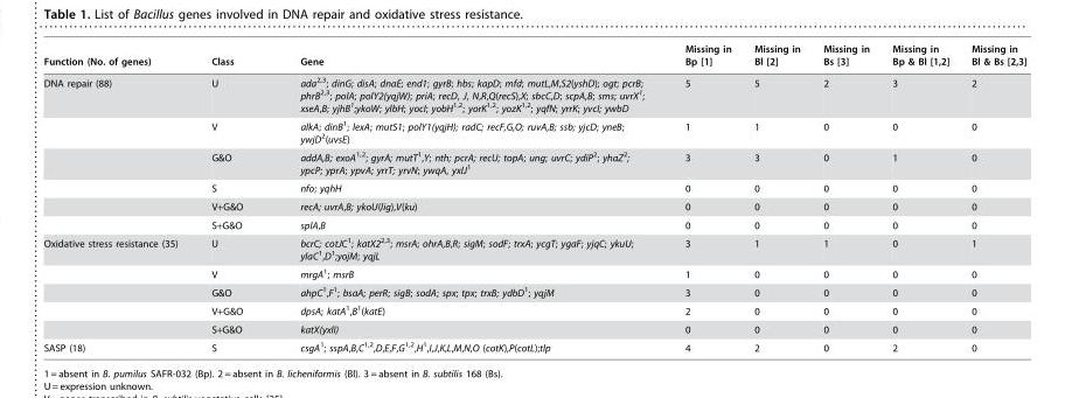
<table><thead><tr><td>Function (No. of genes)</td><td>Class</td><td>Gene</td><td>Missing in Bp [1]</td><td>Missing in Bl [2]</td><td>Missing in Bs [3]</td><td>Missing in Bp &amp; Bl [1,2]</td><td>Missing in Bl &amp; Bs [2,3]</td></tr></thead><tbody><tr><td rowspan="6">DNA repair (88)</td><td>U</td><td>ada2,3; dinG; disA; dnaE; end1; gyrB; hbs; kapD; mfd; mutL,M,S2(yshD); ogt; pcrB; phrB2,3; polA; polY2(yqjW); priA; recD, J, N,R,Q(recS),X; sbcC,D; scpA,B; sms; uvrX1; xseA,B; yjhB1;ykoW; ylbH; yocI; yobH1,2; yorK1,2; yozK1,2; yqfN; yrrK; yvcI; ywbD</td><td>5</td><td>5</td><td>2</td><td>3</td><td>2</td></tr><tr><td>V</td><td>alkA; dinB<sup>1</sup>; lexA; mutS1; polY1(yqjH); radC; recF,G,O; ruvA,B; ssb; yjcD; yneB; ywjD<sup>2</sup>(uvsE)</td><td>1</td><td>1</td><td>0</td><td>0</td><td>0</td></tr><tr><td>G&amp;O</td><td>addA,B; exoA<sup>1,2</sup>; gyrA; mutT<sup>1</sup>,Y; nth; pcrA; recU; topA; ung; uvrC; ydiP<sup>2</sup>; yhaZ<sup>2</sup>; ypcP; yprA; ypvA; yrrT; yrvN; ywqA, yxlJ<sup>1</sup></td><td>3</td><td>3</td><td>0</td><td>1</td><td>0</td></tr><tr><td>S</td><td>nfo; yqhH</td><td>0</td><td>0</td><td>0</td><td>0</td><td>0</td></tr><tr><td>V+G&amp;O</td><td>recA; uvrA,B; ykoU(lig),V(ku)</td><td>0</td><td>0</td><td>0</td><td>0</td><td>0</td></tr><tr><td>S+G&amp;O</td><td>splA,B</td><td>0</td><td>0</td><td>0</td><td>0</td><td>0</td></tr><tr><td rowspan="5">Oxidative stress resistance (35)</td><td>U</td><td>bcrC; cotJC<sup>1</sup>; katX2<sup>2,3</sup>; msrA; ohrA,B,R; sigM; sodF; trxA; ycgT; ygaF; yjqC; ykuU; ylaC<sup>1</sup>,D<sup>1</sup>;yojM; yqjL</td><td>3</td><td>1</td><td>1</td><td>0</td><td>1</td></tr><tr><td>V</td><td>mrgA<sup>1</sup>; msrB</td><td>1</td><td>0</td><td>0</td><td>0</td><td>0</td></tr><tr><td>G&amp;O</td><td>ahpC<sup>1</sup>,F<sup>1</sup>; bsaA; perR; sigB; sodA; spx; tpx; trxB; ydbD<sup>1</sup>; yqjM</td><td>3</td><td>0</td><td>0</td><td>0</td><td>0</td></tr><tr><td>V+G&amp;O</td><td>dpsA; katA<sup>1</sup>,B<sup>1</sup>(katE)</td><td>2</td><td>0</td><td>0</td><td>0</td><td>0</td></tr><tr><td>S+G&amp;O</td><td>katX(yxlI)</td><td>0</td><td>0</td><td>0</td><td>0</td><td>0</td></tr><tr><td>SASP (18)</td><td>S</td><td>csgA<sup>1</sup>; sspA,B,C<sup>1,2</sup>,D,E,F,G<sup>1,2</sup>,H<sup>1</sup>,I,J,K,L,M,N,O (cotK),P(cotL);tlp</td><td>4</td><td>2</td><td>0</td><td>2</td><td>0</td></tr></tbody></table>